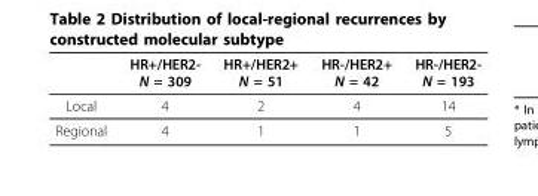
<table><thead><tr><td></td><td>HR+/HER2- N = 309</td><td>HR+/HER2+ N = 51</td><td>HR-/HER2+ N = 42</td><td>HR-/HER2- N = 193</td></tr></thead><tbody><tr><td>Local</td><td>4</td><td>2</td><td>4</td><td>14</td></tr><tr><td>Regional</td><td>4</td><td>1</td><td>1</td><td>5</td></tr></tbody></table>